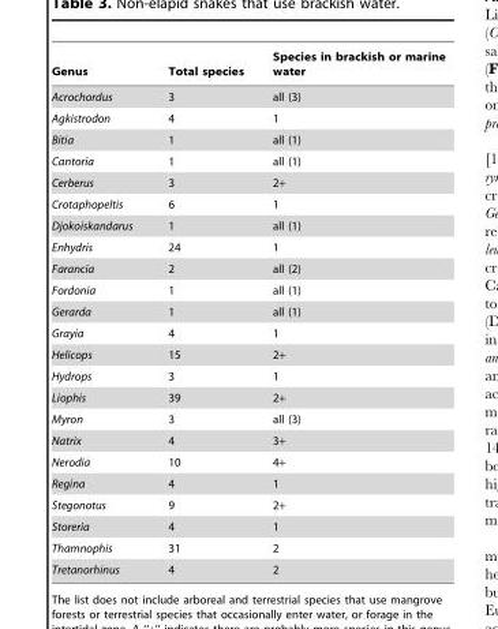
<table><thead><tr><td>Genus</td><td>Total species</td><td>Species in brackish or marine water</td></tr></thead><tbody><tr><td>Acrochordus</td><td>3</td><td>all (3)</td></tr><tr><td>Agkistrodon</td><td>4</td><td>1</td></tr><tr><td>Bitia</td><td>1</td><td>all (1)</td></tr><tr><td>Cantoria</td><td>1</td><td>all (1)</td></tr><tr><td>Cerberus</td><td>3</td><td>2+</td></tr><tr><td>Crotaphopeltis</td><td>6</td><td>1</td></tr><tr><td>Djokoiskandarus</td><td>1</td><td>all (1)</td></tr><tr><td>Enhydris</td><td>24</td><td>1</td></tr><tr><td>Farancia</td><td>2</td><td>all (2)</td></tr><tr><td>Fordonia</td><td>1</td><td>all (1)</td></tr><tr><td>Gerarda</td><td>1</td><td>all (1)</td></tr><tr><td>Grayia</td><td>4</td><td>1</td></tr><tr><td>Helicops</td><td>15</td><td>2+</td></tr><tr><td>Hydrops</td><td>3</td><td>1</td></tr><tr><td>Liophis</td><td>39</td><td>2+</td></tr><tr><td>Myron</td><td>3</td><td>all (3)</td></tr><tr><td>Natrix</td><td>4</td><td>3+</td></tr><tr><td>Nerodia</td><td>10</td><td>4+</td></tr><tr><td>Regina</td><td>4</td><td>1</td></tr><tr><td>Stegonotus</td><td>9</td><td>2+</td></tr><tr><td>Storeria</td><td>4</td><td>1</td></tr><tr><td>Thamnophis</td><td>31</td><td>2</td></tr><tr><td>Tretanorhinus</td><td>4</td><td>2</td></tr></tbody></table>